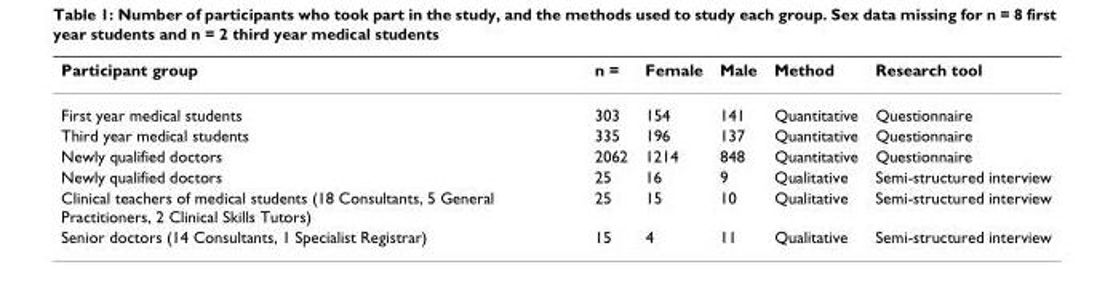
<table><thead><tr><td>Participant group</td><td>n =</td><td>Female</td><td>Male</td><td>Method</td><td>Research tool</td></tr></thead><tbody><tr><td>First year medical students</td><td>303</td><td>154</td><td>141</td><td>Quantitative</td><td>Questionnaire</td></tr><tr><td>Third year medical students</td><td>335</td><td>196</td><td>137</td><td>Quantitative</td><td>Questionnaire</td></tr><tr><td>Newly qualified doctors</td><td>2062</td><td>1214</td><td>848</td><td>Quantitative</td><td>Questionnaire</td></tr><tr><td>Newly qualified doctors</td><td>25</td><td>16</td><td>9</td><td>Qualitative</td><td>Semi-structured interview</td></tr><tr><td>Clinical teachers of medical students (18 Consultants, 5 General Practitioners, 2 Clinical Skills Tutors)</td><td>25</td><td>15</td><td>10</td><td>Qualitative</td><td>Semi-structured interview</td></tr><tr><td>Senior doctors (14 Consultants, 1 Specialist Registrar)</td><td>15</td><td>4</td><td>11</td><td>Qualitative</td><td>Semi-structured interview</td></tr></tbody></table>